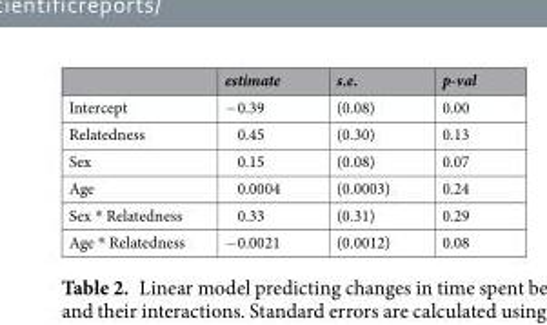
<table><thead><tr><td></td><td>estimate</td><td>s.e.</td><td>p-val</td></tr></thead><tbody><tr><td>Intercept</td><td>−0.39</td><td>(0.08)</td><td>0.00</td></tr><tr><td>Relatedness</td><td>0.45</td><td>(0.30)</td><td>0.13</td></tr><tr><td>Sex</td><td>0.15</td><td>(0.08)</td><td>0.07</td></tr><tr><td>Age</td><td>0.0004</td><td>(0.0003)</td><td>0.24</td></tr><tr><td>Sex * Relatedness</td><td>0.33</td><td>(0.31)</td><td>0.29</td></tr><tr><td>Age * Relatedness</td><td>−0.0021</td><td>(0.0012)</td><td>0.08</td></tr></tbody></table>